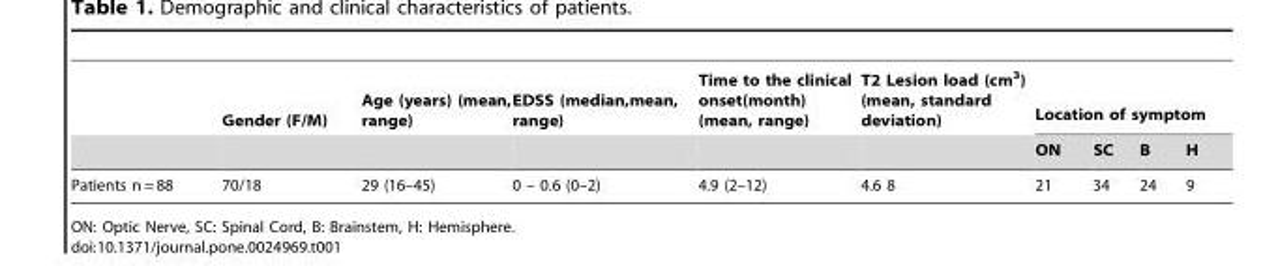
<table><thead><tr><td rowspan="2"></td><td rowspan="2">Gender (F/M)</td><td rowspan="2">Age (years) (mean, range)</td><td rowspan="2">EDSS (median,mean, range)</td><td rowspan="2">Time to the clinical onset(month) (mean, range)</td><td rowspan="2">T2 Lesion load (cm<sup>3</sup>) (mean, standard deviation)</td><td colspan="4">Location of symptom</td></tr><tr><td>ON</td><td>SC</td><td>B</td><td>H</td></tr></thead><tbody><tr><td>Patients n = 88</td><td>70/18</td><td>29 (16–45)</td><td>0 – 0.6 (0–2)</td><td>4.9 (2–12)</td><td>4.6 8</td><td>21</td><td>34</td><td>24</td><td>9</td></tr></tbody></table>